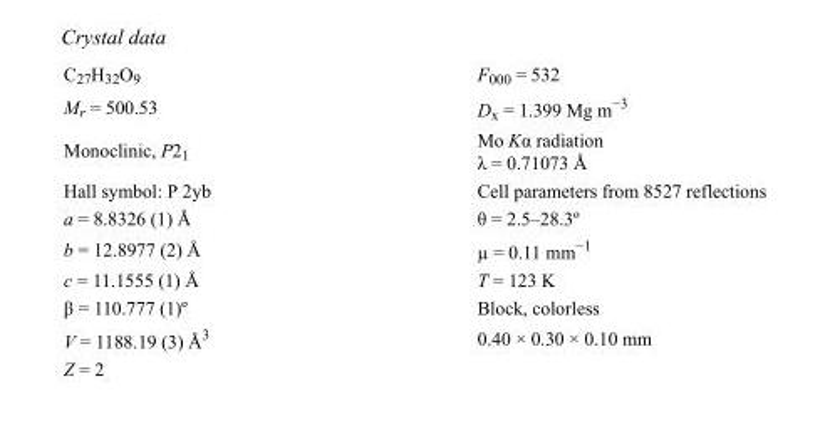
<table><tbody><tr><td>C<sub>27</sub>H<sub>32</sub>O<sub>9</sub></td><td>F000 = 532</td></tr><tr><td>M<sub>r</sub> = 500.53</td><td>D<sub>x</sub> = 1.399 Mg m<sup>−3</sup></td></tr><tr><td>Monoclinic, P2<sub>1</sub></td><td>Mo Kα radiation λ = 0.71073 Å</td></tr><tr><td>Hall symbol: P 2yb</td><td>Cell parameters from 8527 reflections</td></tr><tr><td>a = 8.8326 (1) Å</td><td>θ = 2.5–28.3º</td></tr><tr><td>b = 12.8977 (2) Å</td><td>µ = 0.11 mm<sup>−1</sup></td></tr><tr><td>c = 11.1555 (1) Å</td><td>T = 123 K</td></tr><tr><td>β = 110.777 (1)º</td><td>Block, colorless</td></tr><tr><td>V = 1188.19 (3) Å<sup>3</sup></td><td>0.40 × 0.30 × 0.10 mm</td></tr><tr><td>Z = 2</td><td></td></tr></tbody></table>